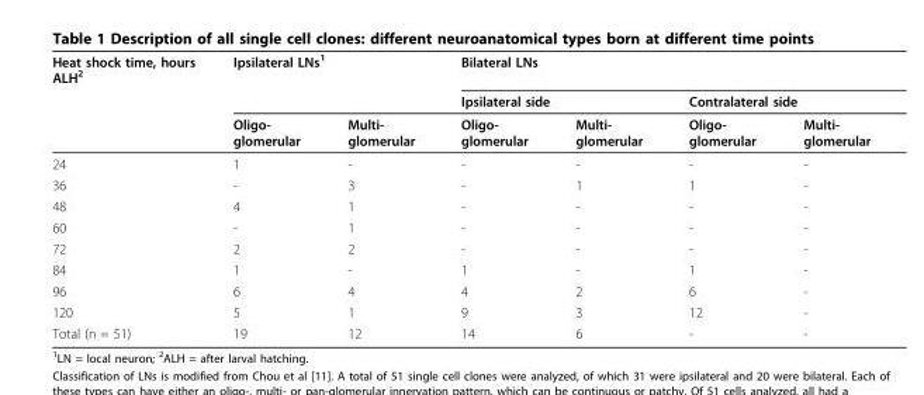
<table><thead><tr><td rowspan="3">Heat shock time, hours ALH<sup>2</sup></td><td colspan="2">Ipsilateral LNs<sup>1</sup></td><td colspan="4">Bilateral LNs</td></tr><tr><td rowspan="2">Oligo- glomerular</td><td rowspan="2">Multi- glomerular</td><td colspan="2">Ipsilateral side</td><td colspan="2">Contralateral side</td></tr><tr><td>Oligo- glomerular</td><td>Multi- glomerular</td><td>Oligo- glomerular</td><td>Multi- glomerular</td></tr></thead><tbody><tr><td>24</td><td>1</td><td>-</td><td>-</td><td>-</td><td>-</td><td>-</td></tr><tr><td>36</td><td>-</td><td>3</td><td>-</td><td>1</td><td>1</td><td>-</td></tr><tr><td>48</td><td>4</td><td>1</td><td>-</td><td>-</td><td>-</td><td>-</td></tr><tr><td>60</td><td>-</td><td>1</td><td>-</td><td>-</td><td>-</td><td>-</td></tr><tr><td>72</td><td>2</td><td>2</td><td>-</td><td>-</td><td>-</td><td>-</td></tr><tr><td>84</td><td>1</td><td>-</td><td>1</td><td>-</td><td>1</td><td>-</td></tr><tr><td>96</td><td>6</td><td>4</td><td>4</td><td>2</td><td>6</td><td>-</td></tr><tr><td>120</td><td>5</td><td>1</td><td>9</td><td>3</td><td>12</td><td>-</td></tr><tr><td>Total (n = 51)</td><td>19</td><td>12</td><td>14</td><td>6</td><td>-</td><td>-</td></tr></tbody></table>